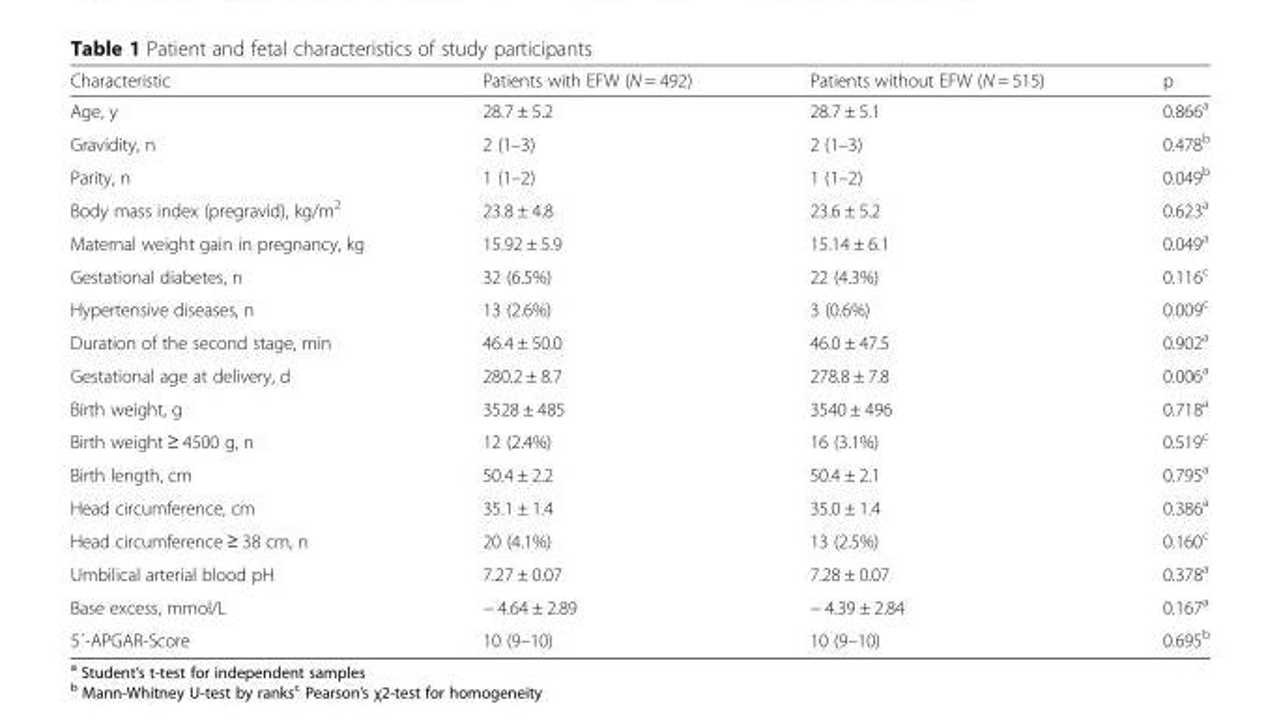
<table><thead><tr><td>Characteristic</td><td>Patients with EFW (N = 492)</td><td>Patients without EFW (N = 515)</td><td>p</td></tr></thead><tbody><tr><td>Age, y</td><td>28.7 ± 5.2</td><td>28.7 ± 5.1</td><td>0.866<sup>a</sup></td></tr><tr><td>Gravidity, n</td><td>2 (1–3)</td><td>2 (1–3)</td><td>0.478<sup>b</sup></td></tr><tr><td>Parity, n</td><td>1 (1–2)</td><td>1 (1–2)</td><td>0.049<sup>b</sup></td></tr><tr><td>Body mass index (pregravid), kg/m<sup>2</sup></td><td>23.8 ± 4.8</td><td>23.6 ± 5.2</td><td>0.623<sup>a</sup></td></tr><tr><td>Maternal weight gain in pregnancy, kg</td><td>15.92 ± 5.9</td><td>15.14 ± 6.1</td><td>0.049<sup>a</sup></td></tr><tr><td>Gestational diabetes, n</td><td>32 (6.5%)</td><td>22 (4.3%)</td><td>0.116<sup>c</sup></td></tr><tr><td>Hypertensive diseases, n</td><td>13 (2.6%)</td><td>3 (0.6%)</td><td>0.009<sup>c</sup></td></tr><tr><td>Duration of the second stage, min</td><td>46.4 ± 50.0</td><td>46.0 ± 47.5</td><td>0.902<sup>a</sup></td></tr><tr><td>Gestational age at delivery, d</td><td>280.2 ± 8.7</td><td>278.8 ± 7.8</td><td>0.006<sup>a</sup></td></tr><tr><td>Birth weight, g</td><td>3528 ± 485</td><td>3540 ± 496</td><td>0.718<sup>a</sup></td></tr><tr><td>Birth weight ≥ 4500 g, n</td><td>12 (2.4%)</td><td>16 (3.1%)</td><td>0.519<sup>c</sup></td></tr><tr><td>Birth length, cm</td><td>50.4 ± 2.2</td><td>50.4 ± 2.1</td><td>0.795<sup>a</sup></td></tr><tr><td>Head circumference, cm</td><td>35.1 ± 1.4</td><td>35.0 ± 1.4</td><td>0.386<sup>a</sup></td></tr><tr><td>Head circumference ≥ 38 cm, n</td><td>20 (4.1%)</td><td>13 (2.5%)</td><td>0.160<sup>c</sup></td></tr><tr><td>Umbilical arterial blood pH</td><td>7.27 ± 0.07</td><td>7.28 ± 0.07</td><td>0.378<sup>a</sup></td></tr><tr><td>Base excess, mmol/L</td><td>− 4.64 ± 2.89</td><td>− 4.39 ± 2.84</td><td>0.167<sup>a</sup></td></tr><tr><td>5´-APGAR-Score</td><td>10 (9–10)</td><td>10 (9–10)</td><td>0.695<sup>b</sup></td></tr></tbody></table>